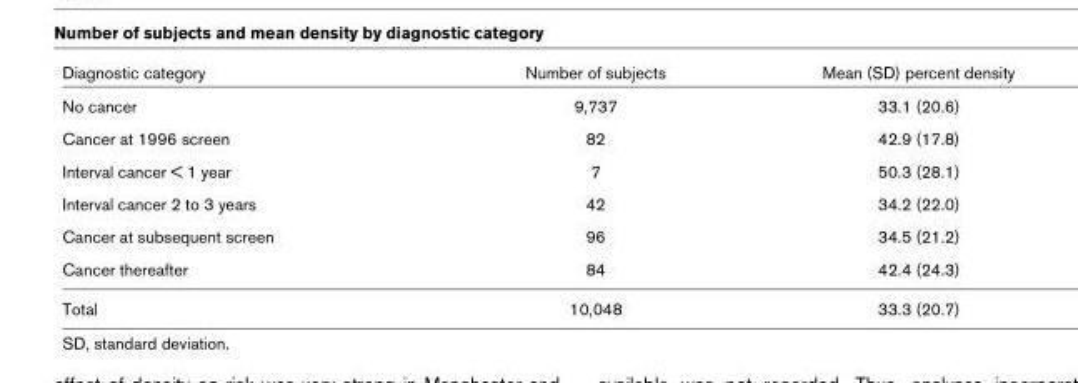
<table><thead><tr><td>Diagnostic category</td><td>Number of subjects</td><td>Mean (SD) percent density</td></tr></thead><tbody><tr><td>No cancer</td><td>9,737</td><td>33.1 (20.6)</td></tr><tr><td>Cancer at 1996 screen</td><td>82</td><td>42.9 (17.8)</td></tr><tr><td>Interval cancer &lt; 1 year</td><td>7</td><td>50.3 (28.1)</td></tr><tr><td>Interval cancer 2 to 3 years</td><td>42</td><td>34.2 (22.0)</td></tr><tr><td>Cancer at subsequent screen</td><td>96</td><td>34.5 (21.2)</td></tr><tr><td>Cancer thereafter</td><td>84</td><td>42.4 (24.3)</td></tr><tr><td>Total</td><td>10,048</td><td>33.3 (20.7)</td></tr></tbody></table>